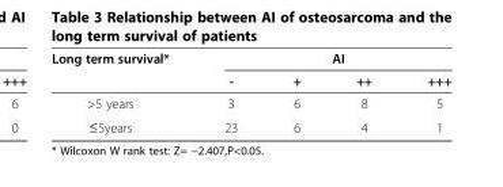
<table><thead><tr><td rowspan="2">Long term survival*</td><td colspan="4">AI</td></tr><tr><td>-</td><td>+</td><td>++</td><td>+++</td></tr></thead><tbody><tr><td>&gt;5 years</td><td>3</td><td>6</td><td>8</td><td>5</td></tr><tr><td>≤5years</td><td>23</td><td>6</td><td>4</td><td>1</td></tr></tbody></table>